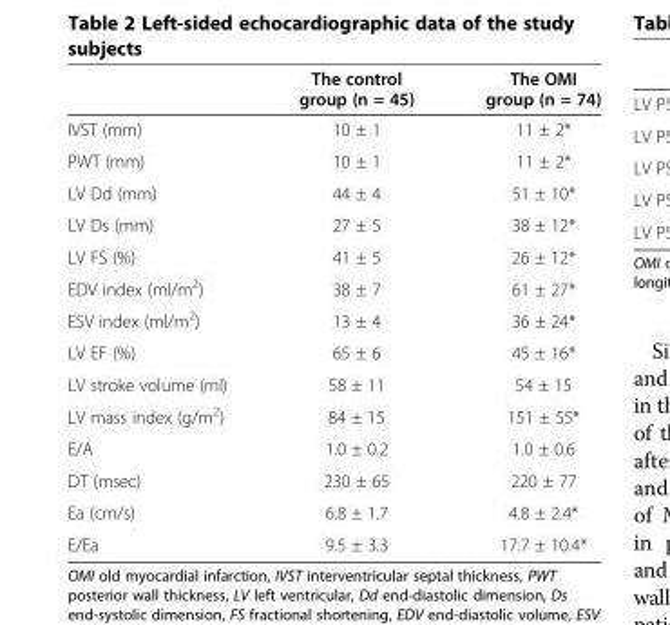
<table><thead><tr><td></td><td>The control group (n = 45)</td><td>The OMI group (n = 74)</td></tr></thead><tbody><tr><td>IVST (mm)</td><td>10 ± 1</td><td>11 ± 2*</td></tr><tr><td>PWT (mm)</td><td>10 ± 1</td><td>11 ± 2*</td></tr><tr><td>LV Dd (mm)</td><td>44 ± 4</td><td>51 ± 10*</td></tr><tr><td>LV Ds (mm)</td><td>27 ± 5</td><td>38 ± 12*</td></tr><tr><td>LV FS (%)</td><td>41 ± 5</td><td>26 ± 12*</td></tr><tr><td>EDV index (ml/m<sup>2</sup>)</td><td>38 ± 7</td><td>61 ± 27*</td></tr><tr><td>ESV index (ml/m<sup>2</sup>)</td><td>13 ± 4</td><td>36 ± 24*</td></tr><tr><td>LV EF (%)</td><td>65 ± 6</td><td>45 ± 16*</td></tr><tr><td>LV stroke volume (ml)</td><td>58 ± 11</td><td>54 ± 15</td></tr><tr><td>LV mass index (g/m<sup>2</sup>)</td><td>84 ± 15</td><td>151 ± 55*</td></tr><tr><td>E/A</td><td>1.0 ± 0.2</td><td>1.0 ± 0.6</td></tr><tr><td>DT (msec)</td><td>230 ± 65</td><td>220 ± 77</td></tr><tr><td>Ea (cm/s)</td><td>6.8 ± 1.7</td><td>4.8 ± 2.4*</td></tr><tr><td>E/Ea</td><td>9.5 ± 3.3</td><td>17.7 ± 10.4*</td></tr></tbody></table>